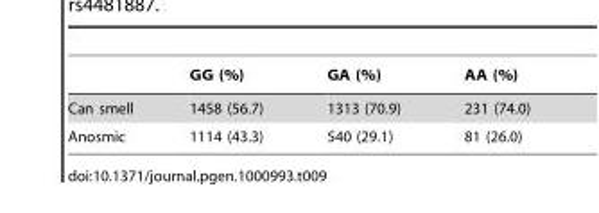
<table><thead><tr><td></td><td>GG (%)</td><td>GA (%)</td><td>AA (%)</td></tr></thead><tbody><tr><td>Can smell</td><td>1458 (56.7)</td><td>1313 (70.9)</td><td>231 (74.0)</td></tr><tr><td>Anosmic</td><td>1114 (43.3)</td><td>540 (29.1)</td><td>81 (26.0)</td></tr></tbody></table>